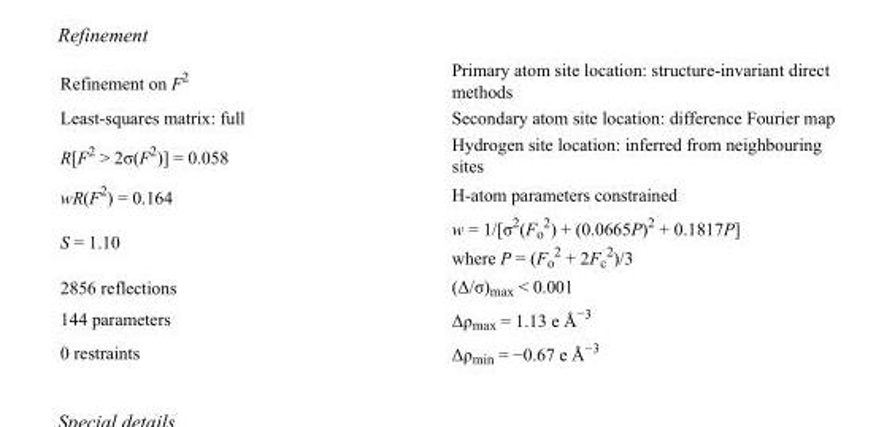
<table><tbody><tr><td>Refinement on F<sup>2</sup></td><td>Primary atom site location: structure-invariant direct methods</td></tr><tr><td>Least-squares matrix: full</td><td>Secondary atom site location: difference Fourier map</td></tr><tr><td>R[F<sup>2</sup> &gt; 2σ(F<sup>2</sup>)] = 0.058</td><td>Hydrogen site location: inferred from neighbouring sites</td></tr><tr><td>wR(F<sup>2</sup>) = 0.164</td><td>H-atom parameters constrained</td></tr><tr><td>S = 1.10</td><td>w = 1/[σ<sup>2</sup>(F<sub>o</sub> <sup>2</sup>) + (0.0665P)<sup>2</sup> + 0.1817P] where P = (F<sub>o</sub> <sup>2</sup> + 2F<sub>c</sub> <sup>2</sup>)/3</td></tr><tr><td>2856 reflections</td><td>(Δ/σ)<sub>max</sub> &lt; 0.001</td></tr><tr><td>144 parameters</td><td>Δρ<sub>max</sub> = 1.13 e Å<sup>−3</sup></td></tr><tr><td>0 restraints</td><td>Δρ<sub>min</sub> = −0.67 e Å<sup>−3</sup></td></tr></tbody></table>